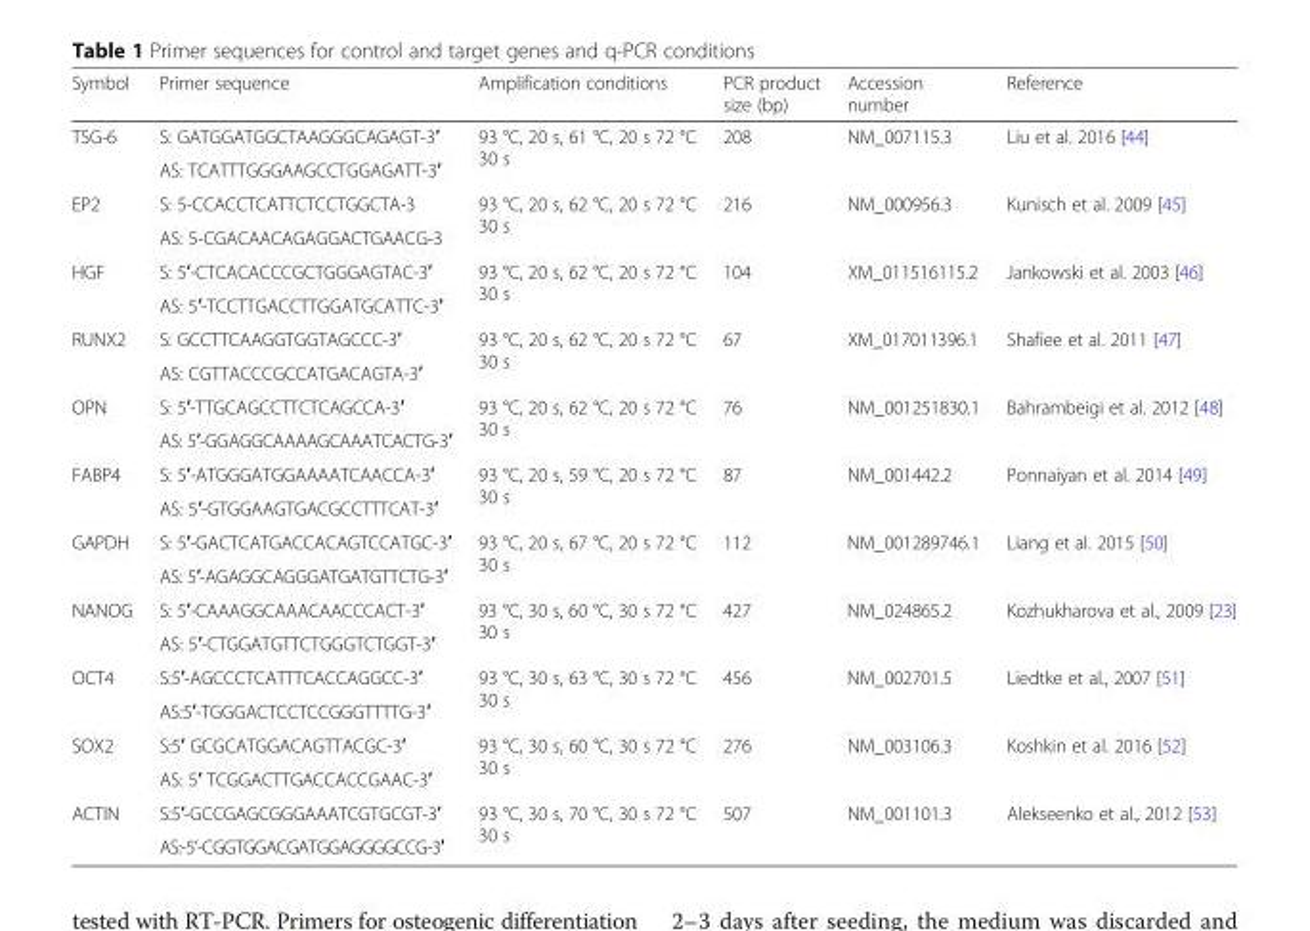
<table><thead><tr><td>Symbol</td><td>Primer sequence</td><td>Amplification conditions</td><td>PCR product size (bp)</td><td>Accession number</td><td>Reference</td></tr></thead><tbody><tr><td rowspan="2">TSG-6</td><td>S: GATGGATGGCTAAGGGCAGAGT-3′</td><td rowspan="2">93 °C, 20 s, 61 °C, 20 s 72 °C 30 s</td><td rowspan="2">208</td><td rowspan="2">NM_007115.3</td><td rowspan="2">Liu et al. 2016 [44]</td></tr><tr><td>AS: TCATTTGGGAAGCCTGGAGATT-3′</td></tr><tr><td rowspan="2">EP2</td><td>S: 5-CCACCTCATTCTCCTGGCTA-3</td><td rowspan="2">93 °C, 20 s, 62 °C, 20 s 72 °C 30 s</td><td rowspan="2">216</td><td rowspan="2">NM_000956.3</td><td rowspan="2">Kunisch et al. 2009 [45]</td></tr><tr><td>AS: 5-CGACAACAGAGGACTGAACG-3</td></tr><tr><td rowspan="2">HGF</td><td>S: 5′-CTCACACCCGCTGGGAGTAC-3′</td><td rowspan="2">93 °C, 20 s, 62 °C, 20 s 72 °C 30 s</td><td rowspan="2">104</td><td rowspan="2">XM_011516115.2</td><td rowspan="2">Jankowski et al. 2003 [46]</td></tr><tr><td>AS: 5′-TCCTTGACCTTGGATGCATTC-3′</td></tr><tr><td rowspan="2">RUNX2</td><td>S: GCCTTCAAGGTGGTAGCCC-3′</td><td rowspan="2">93 °C, 20 s, 62 °C, 20 s 72 °C 30 s</td><td rowspan="2">67</td><td rowspan="2">XM_017011396.1</td><td rowspan="2">Shafiee et al. 2011 [47]</td></tr><tr><td>AS: CGTTACCCGCCATGACAGTA-3′</td></tr><tr><td rowspan="2">OPN</td><td>S: 5′-TTGCAGCCTTCTCAGCCA-3′</td><td rowspan="2">93 °C, 20 s, 62 °C, 20 s 72 °C 30 s</td><td rowspan="2">76</td><td rowspan="2">NM_001251830.1</td><td rowspan="2">Bahrambeigi et al. 2012 [48]</td></tr><tr><td>AS: 5′-GGAGGCAAAAGCAAATCACTG-3′</td></tr><tr><td rowspan="2">FABP4</td><td>S: 5′-ATGGGATGGAAAATCAACCA-3′</td><td rowspan="2">93 °C, 20 s, 59 °C, 20 s 72 °C 30 s</td><td rowspan="2">87</td><td rowspan="2">NM_001442.2</td><td rowspan="2">Ponnaiyan et al. 2014 [49]</td></tr><tr><td>AS: 5′-GTGGAAGTGACGCCTTTCAT-3′</td></tr><tr><td rowspan="2">GAPDH</td><td>S: 5′-GACTCATGACCACAGTCCATGC-3′</td><td rowspan="2">93 °C, 20 s, 67 °C, 20 s 72 °C 30 s</td><td rowspan="2">112</td><td rowspan="2">NM_001289746.1</td><td rowspan="2">Liang et al. 2015 [50]</td></tr><tr><td>AS: 5′-AGAGGCAGGGATGATGTTCTG-3′</td></tr><tr><td rowspan="2">NANOG</td><td>S: 5′-CAAAGGCAAACAACCCACT-3′</td><td rowspan="2">93 °C, 30 s, 60 °C, 30 s 72 °C 30 s</td><td rowspan="2">427</td><td rowspan="2">NM_024865.2</td><td rowspan="2">Kozhukharova et al., 2009 [23]</td></tr><tr><td>AS: 5′-CTGGATGTTCTGGGTCTGGT-3′</td></tr><tr><td rowspan="2">OCT4</td><td>S:5′-AGCCCTCATTTCACCAGGCC-3′</td><td rowspan="2">93 °C, 30 s, 63 °C, 30 s 72 °C 30 s</td><td rowspan="2">456</td><td rowspan="2">NM_002701.5</td><td rowspan="2">Liedtke et al., 2007 [51]</td></tr><tr><td>AS:5′-TGGGACTCCTCCGGGTTTTG-3′</td></tr><tr><td rowspan="2">SOX2</td><td>S:5′ GCGCATGGACAGTTACGC-3′</td><td rowspan="2">93 °C, 30 s, 60 °C, 30 s 72 °C 30 s</td><td rowspan="2">276</td><td rowspan="2">NM_003106.3</td><td rowspan="2">Koshkin et al. 2016 [52]</td></tr><tr><td>AS: 5′ TCGGACTTGACCACCGAAC-3′</td></tr><tr><td rowspan="2">ACTIN</td><td>S:5′-GCCGAGCGGGAAATCGTGCGT-3′</td><td rowspan="2">93 °C, 30 s, 70 °C, 30 s 72 °C 30 s</td><td rowspan="2">507</td><td rowspan="2">NM_001101.3</td><td rowspan="2">Alekseenko et al., 2012 [53]</td></tr><tr><td>AS:-5’-CGGTGGACGATGGAGGGGCCG-3′</td></tr></tbody></table>